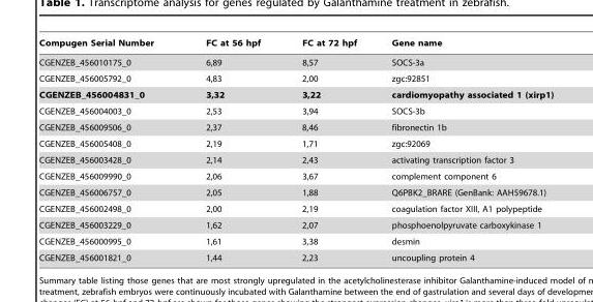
<table><thead><tr><td>Compugen Serial Number</td><td>FC at 56 hpf</td><td>FC at 72 hpf</td><td>Gene name</td></tr></thead><tbody><tr><td>CGENZEB_456010175_0</td><td>6,89</td><td>8,57</td><td>SOCS-3a</td></tr><tr><td>CGENZEB_456005792_0</td><td>4,83</td><td>2,00</td><td>zgc:92851</td></tr><tr><td>CGENZEB_456004831_0</td><td>3,32</td><td>3,22</td><td>cardiomyopathy associated 1 (xirp1)</td></tr><tr><td>CGENZEB_456004003_0</td><td>2,53</td><td>3,94</td><td>SOCS-3b</td></tr><tr><td>CGENZEB_456009506_0</td><td>2,37</td><td>8,46</td><td>fibronectin 1b</td></tr><tr><td>CGENZEB_456005408_0</td><td>2,19</td><td>1,71</td><td>zgc:92069</td></tr><tr><td>CGENZEB_456003428_0</td><td>2,14</td><td>2,43</td><td>activating transcription factor 3</td></tr><tr><td>CGENZEB_456009990_0</td><td>2,06</td><td>3,67</td><td>complement component 6</td></tr><tr><td>CGENZEB_456006757_0</td><td>2,05</td><td>1,88</td><td>Q6PBK2_BRARE (GenBank: AAH59678.1)</td></tr><tr><td>CGENZEB_456002498_0</td><td>2,00</td><td>2,19</td><td>coagulation factor XIII, A1 polypeptide</td></tr><tr><td>CGENZEB_456003229_0</td><td>1,62</td><td>2,07</td><td>phosphoenolpyruvate carboxykinase 1</td></tr><tr><td>CGENZEB_456000995_0</td><td>1,61</td><td>3,38</td><td>desmin</td></tr><tr><td>CGENZEB_456001821_0</td><td>1,44</td><td>2,23</td><td>uncoupling protein 4</td></tr></tbody></table>